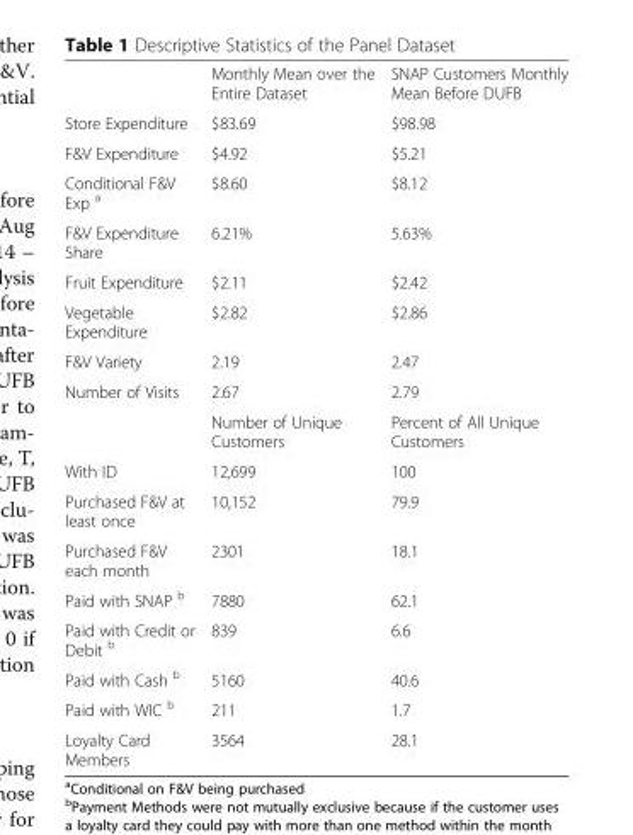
<table><thead><tr><td></td><td>Monthly Mean over the Entire Dataset</td><td>SNAP Customers Monthly Mean Before DUFB</td></tr></thead><tbody><tr><td>Store Expenditure</td><td>$83.69</td><td>$98.98</td></tr><tr><td>F&amp;V Expenditure</td><td>$4.92</td><td>$5.21</td></tr><tr><td>Conditional F&amp;V Exp <sup>a</sup></td><td>$8.60</td><td>$8.12</td></tr><tr><td>F&amp;V Expenditure Share</td><td>6.21%</td><td>5.63%</td></tr><tr><td>Fruit Expenditure</td><td>$2.11</td><td>$2.42</td></tr><tr><td>Vegetable Expenditure</td><td>$2.82</td><td>$2.86</td></tr><tr><td>F&amp;V Variety</td><td>2.19</td><td>2.47</td></tr><tr><td rowspan="2">Number of Visits</td><td>2.67</td><td>2.79</td></tr><tr><td>Number of Unique Customers</td><td>Percent of All Unique Customers</td></tr><tr><td>With ID</td><td>12,699</td><td>100</td></tr><tr><td>Purchased F&amp;V at least once</td><td>10,152</td><td>79.9</td></tr><tr><td>Purchased F&amp;V each month</td><td>2301</td><td>18.1</td></tr><tr><td>Paid with SNAP <sup>b</sup></td><td>7880</td><td>62.1</td></tr><tr><td>Paid with Credit or Debit <sup>b</sup></td><td>839</td><td>6.6</td></tr><tr><td>Paid with Cash <sup>b</sup></td><td>5160</td><td>40.6</td></tr><tr><td>Paid with WIC <sup>b</sup></td><td>211</td><td>1.7</td></tr><tr><td>Loyalty Card Members</td><td>3564</td><td>28.1</td></tr></tbody></table>